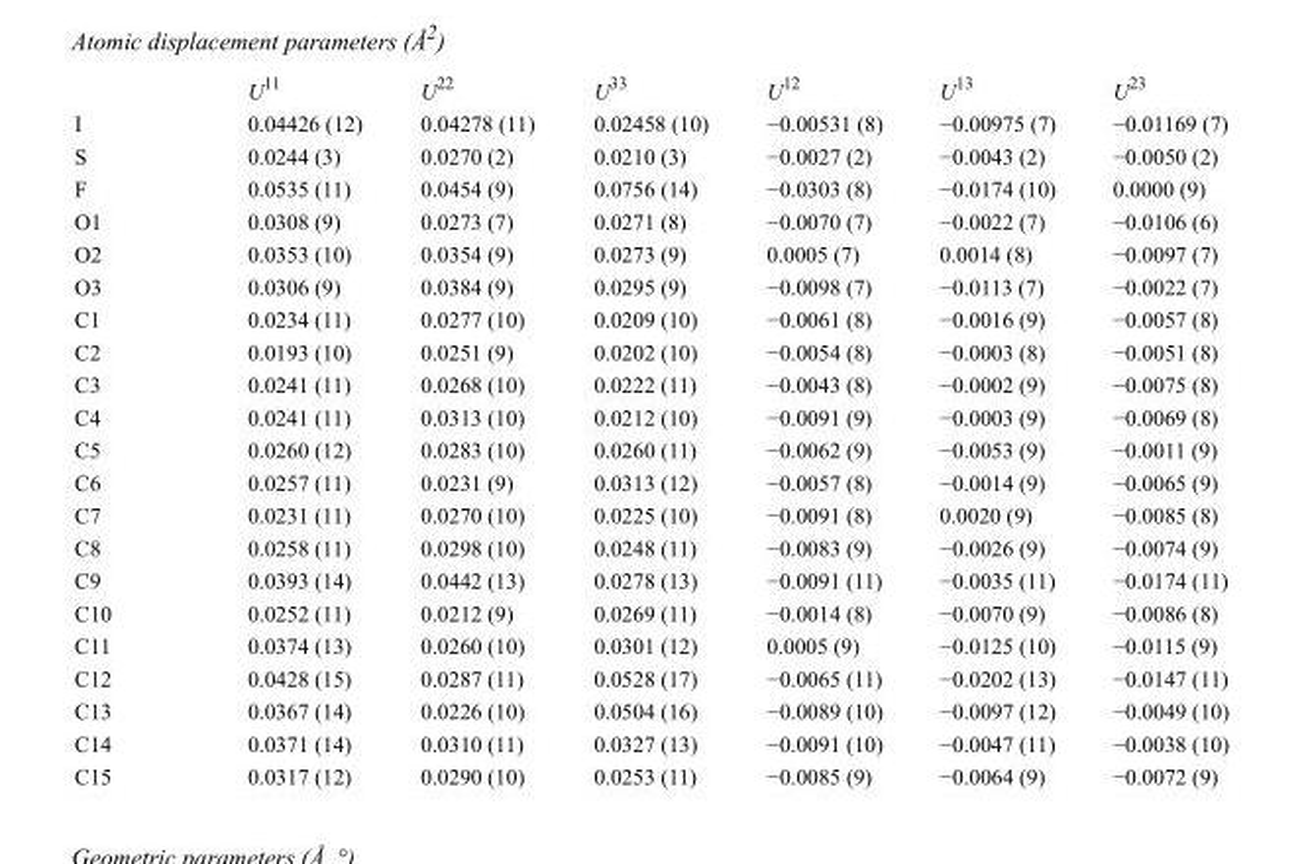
<table><thead><tr><td></td><td>U<sup>11</sup></td><td>U<sup>22</sup></td><td>U<sup>33</sup></td><td>U<sup>12</sup></td><td>U<sup>13</sup></td><td>U<sup>23</sup></td></tr></thead><tbody><tr><td>I</td><td>0.04426 (12)</td><td>0.04278 (11)</td><td>0.02458 (10)</td><td>−0.00531 (8)</td><td>−0.00975 (7)</td><td>−0.01169 (7)</td></tr><tr><td>S</td><td>0.0244 (3)</td><td>0.0270 (2)</td><td>0.0210 (3)</td><td>−0.0027 (2)</td><td>−0.0043 (2)</td><td>−0.0050 (2)</td></tr><tr><td>F</td><td>0.0535 (11)</td><td>0.0454 (9)</td><td>0.0756 (14)</td><td>−0.0303 (8)</td><td>−0.0174 (10)</td><td>0.0000 (9)</td></tr><tr><td>O1</td><td>0.0308 (9)</td><td>0.0273 (7)</td><td>0.0271 (8)</td><td>−0.0070 (7)</td><td>−0.0022 (7)</td><td>−0.0106 (6)</td></tr><tr><td>O2</td><td>0.0353 (10)</td><td>0.0354 (9)</td><td>0.0273 (9)</td><td>0.0005 (7)</td><td>0.0014 (8)</td><td>−0.0097 (7)</td></tr><tr><td>O3</td><td>0.0306 (9)</td><td>0.0384 (9)</td><td>0.0295 (9)</td><td>−0.0098 (7)</td><td>−0.0113 (7)</td><td>−0.0022 (7)</td></tr><tr><td>C1</td><td>0.0234 (11)</td><td>0.0277 (10)</td><td>0.0209 (10)</td><td>−0.0061 (8)</td><td>−0.0016 (9)</td><td>−0.0057 (8)</td></tr><tr><td>C2</td><td>0.0193 (10)</td><td>0.0251 (9)</td><td>0.0202 (10)</td><td>−0.0054 (8)</td><td>−0.0003 (8)</td><td>−0.0051 (8)</td></tr><tr><td>C3</td><td>0.0241 (11)</td><td>0.0268 (10)</td><td>0.0222 (11)</td><td>−0.0043 (8)</td><td>−0.0002 (9)</td><td>−0.0075 (8)</td></tr><tr><td>C4</td><td>0.0241 (11)</td><td>0.0313 (10)</td><td>0.0212 (10)</td><td>−0.0091 (9)</td><td>−0.0003 (9)</td><td>−0.0069 (8)</td></tr><tr><td>C5</td><td>0.0260 (12)</td><td>0.0283 (10)</td><td>0.0260 (11)</td><td>−0.0062 (9)</td><td>−0.0053 (9)</td><td>−0.0011 (9)</td></tr><tr><td>C6</td><td>0.0257 (11)</td><td>0.0231 (9)</td><td>0.0313 (12)</td><td>−0.0057 (8)</td><td>−0.0014 (9)</td><td>−0.0065 (9)</td></tr><tr><td>C7</td><td>0.0231 (11)</td><td>0.0270 (10)</td><td>0.0225 (10)</td><td>−0.0091 (8)</td><td>0.0020 (9)</td><td>−0.0085 (8)</td></tr><tr><td>C8</td><td>0.0258 (11)</td><td>0.0298 (10)</td><td>0.0248 (11)</td><td>−0.0083 (9)</td><td>−0.0026 (9)</td><td>−0.0074 (9)</td></tr><tr><td>C9</td><td>0.0393 (14)</td><td>0.0442 (13)</td><td>0.0278 (13)</td><td>−0.0091 (11)</td><td>−0.0035 (11)</td><td>−0.0174 (11)</td></tr><tr><td>C10</td><td>0.0252 (11)</td><td>0.0212 (9)</td><td>0.0269 (11)</td><td>−0.0014 (8)</td><td>−0.0070 (9)</td><td>−0.0086 (8)</td></tr><tr><td>C11</td><td>0.0374 (13)</td><td>0.0260 (10)</td><td>0.0301 (12)</td><td>0.0005 (9)</td><td>−0.0125 (10)</td><td>−0.0115 (9)</td></tr><tr><td>C12</td><td>0.0428 (15)</td><td>0.0287 (11)</td><td>0.0528 (17)</td><td>−0.0065 (11)</td><td>−0.0202 (13)</td><td>−0.0147 (11)</td></tr><tr><td>C13</td><td>0.0367 (14)</td><td>0.0226 (10)</td><td>0.0504 (16)</td><td>−0.0089 (10)</td><td>−0.0097 (12)</td><td>−0.0049 (10)</td></tr><tr><td>C14</td><td>0.0371 (14)</td><td>0.0310 (11)</td><td>0.0327 (13)</td><td>−0.0091 (10)</td><td>−0.0047 (11)</td><td>−0.0038 (10)</td></tr><tr><td>C15</td><td>0.0317 (12)</td><td>0.0290 (10)</td><td>0.0253 (11)</td><td>−0.0085 (9)</td><td>−0.0064 (9)</td><td>−0.0072 (9)</td></tr></tbody></table>